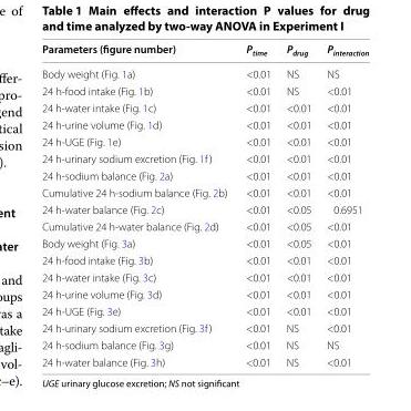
<table><thead><tr><td>Parameters (figure number)</td><td>P<sub>time</sub></td><td>P<sub>drug</sub></td><td>P<sub>interaction</sub></td></tr></thead><tbody><tr><td>Body weight (Fig. 1a)</td><td>&lt;0.01</td><td>NS</td><td>NS</td></tr><tr><td>24 h‑food intake (Fig. 1b)</td><td>&lt;0.01</td><td>NS</td><td>&lt;0.01</td></tr><tr><td>24 h‑water intake (Fig. 1c)</td><td>&lt;0.01</td><td>&lt;0.01</td><td>&lt;0.01</td></tr><tr><td>24 h‑urine volume (Fig. 1d)</td><td>&lt;0.01</td><td>&lt;0.01</td><td>&lt;0.01</td></tr><tr><td>24 h‑UGE (Fig. 1e)</td><td>&lt;0.01</td><td>&lt;0.01</td><td>&lt;0.01</td></tr><tr><td>24 h‑urinary sodium excretion (Fig. 1f)</td><td>&lt;0.01</td><td>&lt;0.01</td><td>&lt;0.01</td></tr><tr><td>24 h‑sodium balance (Fig. 2a)</td><td>&lt;0.01</td><td>&lt;0.01</td><td>&lt;0.01</td></tr><tr><td>Cumulative 24 h‑sodium balance (Fig. 2b)</td><td>&lt;0.01</td><td>&lt;0.01</td><td>&lt;0.01</td></tr><tr><td>24 h‑water balance (Fig. 2c)</td><td>&lt;0.01</td><td>&lt;0.05</td><td>0.6951</td></tr><tr><td>Cumulative 24 h‑water balance (Fig. 2d)</td><td>&lt;0.01</td><td>&lt;0.05</td><td>&lt;0.01</td></tr><tr><td>Body weight (Fig. 3a)</td><td>&lt;0.01</td><td>&lt;0.05</td><td>&lt;0.01</td></tr><tr><td>24 h‑food intake (Fig. 3b)</td><td>&lt;0.01</td><td>&lt;0.01</td><td>&lt;0.01</td></tr><tr><td>24 h‑water intake (Fig. 3c)</td><td>&lt;0.01</td><td>&lt;0.01</td><td>&lt;0.01</td></tr><tr><td>24 h‑urine volume (Fig. 3d)</td><td>&lt;0.01</td><td>&lt;0.01</td><td>&lt;0.01</td></tr><tr><td>24 h‑UGE (Fig. 3e)</td><td>&lt;0.01</td><td>&lt;0.01</td><td>&lt;0.01</td></tr><tr><td>24 h‑urinary sodium excretion (Fig. 3f)</td><td>&lt;0.01</td><td>NS</td><td>&lt;0.01</td></tr><tr><td>24 h‑sodium balance (Fig. 3g)</td><td>&lt;0.01</td><td>NS</td><td>NS</td></tr><tr><td>24 h‑water balance (Fig. 3h)</td><td>&lt;0.01</td><td>NS</td><td>&lt;0.01</td></tr></tbody></table>